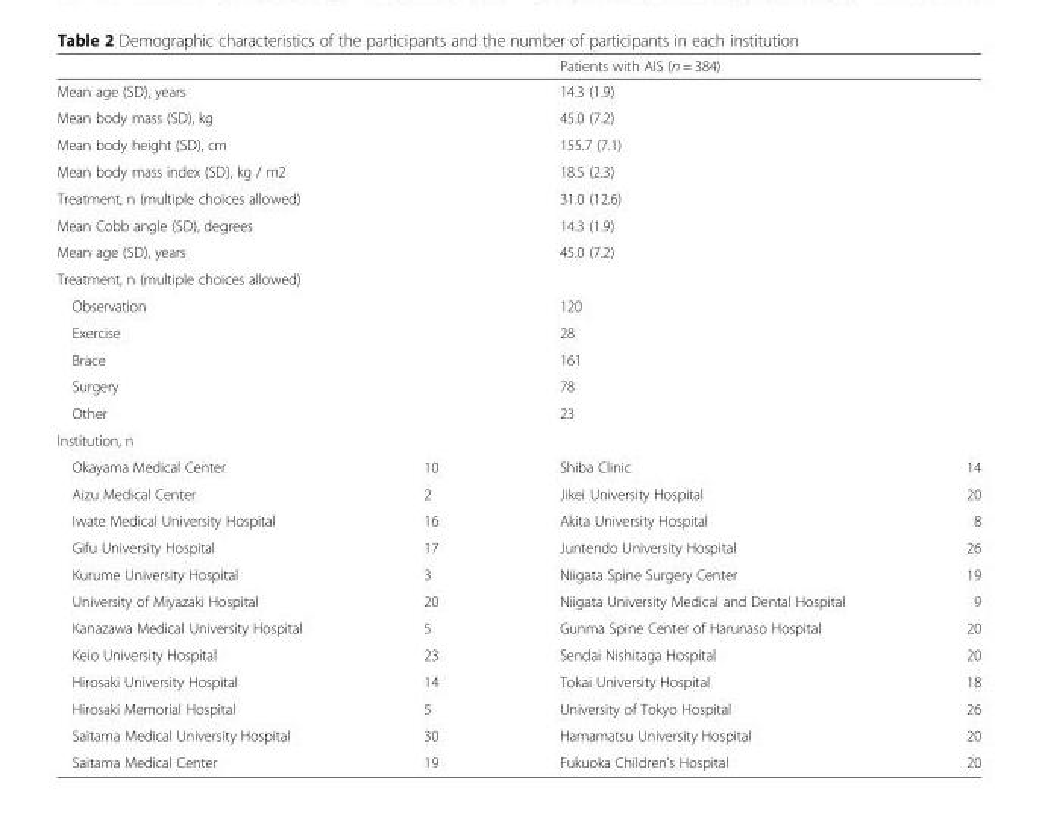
<table><thead><tr><td></td><td></td><td>Patients with AIS (n = 384)</td><td></td></tr></thead><tbody><tr><td colspan="2">Mean age (SD), years</td><td>14.3 (1.9)</td><td></td></tr><tr><td colspan="2">Mean body mass (SD), kg</td><td>45.0 (7.2)</td><td></td></tr><tr><td colspan="2">Mean body height (SD), cm</td><td>155.7 (7.1)</td><td></td></tr><tr><td colspan="2">Mean body mass index (SD), kg / m2</td><td>18.5 (2.3)</td><td></td></tr><tr><td colspan="2">Treatment, n (multiple choices allowed)</td><td>31.0 (12.6)</td><td></td></tr><tr><td colspan="2">Mean Cobb angle (SD), degrees</td><td>14.3 (1.9)</td><td></td></tr><tr><td colspan="2">Mean age (SD), years</td><td>45.0 (7.2)</td><td></td></tr><tr><td colspan="4">Treatment, n (multiple choices allowed)</td></tr><tr><td colspan="2">Observation</td><td>120</td><td></td></tr><tr><td colspan="2">Exercise</td><td>28</td><td></td></tr><tr><td colspan="2">Brace</td><td>161</td><td></td></tr><tr><td colspan="2">Surgery</td><td>78</td><td></td></tr><tr><td colspan="2">Other</td><td>23</td><td></td></tr><tr><td colspan="4">Institution, n</td></tr><tr><td>Okayama Medical Center</td><td>10</td><td>Shiba Clinic</td><td>14</td></tr><tr><td>Aizu Medical Center</td><td>2</td><td>Jikei University Hospital</td><td>20</td></tr><tr><td>Iwate Medical University Hospital</td><td>16</td><td>Akita University Hospital</td><td>8</td></tr><tr><td>Gifu University Hospital</td><td>17</td><td>Juntendo University Hospital</td><td>26</td></tr><tr><td>Kurume University Hospital</td><td>3</td><td>Niigata Spine Surgery Center</td><td>19</td></tr><tr><td>University of Miyazaki Hospital</td><td>20</td><td>Niigata University Medical and Dental Hospital</td><td>9</td></tr><tr><td>Kanazawa Medical University Hospital</td><td>5</td><td>Gunma Spine Center of Harunaso Hospital</td><td>20</td></tr><tr><td>Keio University Hospital</td><td>23</td><td>Sendai Nishitaga Hospital</td><td>20</td></tr><tr><td>Hirosaki University Hospital</td><td>14</td><td>Tokai University Hospital</td><td>18</td></tr><tr><td>Hirosaki Memorial Hospital</td><td>5</td><td>University of Tokyo Hospital</td><td>26</td></tr><tr><td>Saitama Medical University Hospital</td><td>30</td><td>Hamamatsu University Hospital</td><td>20</td></tr><tr><td>Saitama Medical Center</td><td>19</td><td>Fukuoka Children’s Hospital</td><td>20</td></tr></tbody></table>